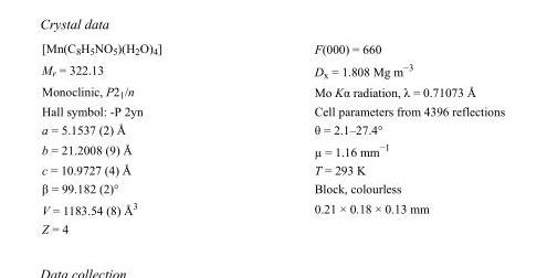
<table><tbody><tr><td>[Mn(C<sub>8</sub>H<sub>5</sub>NO<sub>5</sub>)(H<sub>2</sub>O)<sub>4</sub>]</td><td>F(000) = 660</td></tr><tr><td>M<sub>r</sub> = 322.13</td><td>D<sub>x</sub> = 1.808 Mg m<sup>−3</sup></td></tr><tr><td>Monoclinic, P2<sub>1</sub>/n</td><td>Mo Kα radiation, λ = 0.71073 Å</td></tr><tr><td>Hall symbol: -P 2yn</td><td>Cell parameters from 4396 reflections</td></tr><tr><td>a = 5.1537 (2) Å</td><td>θ = 2.1–27.4°</td></tr><tr><td>b = 21.2008 (9) Å</td><td>µ = 1.16 mm<sup>−1</sup></td></tr><tr><td>c = 10.9727 (4) Å</td><td>T = 293 K</td></tr><tr><td>β = 99.182 (2)°</td><td>Block, colourless</td></tr><tr><td>V = 1183.54 (8) Å<sup>3</sup></td><td>0.21 × 0.18 × 0.13 mm</td></tr><tr><td>Z = 4</td><td></td></tr></tbody></table>